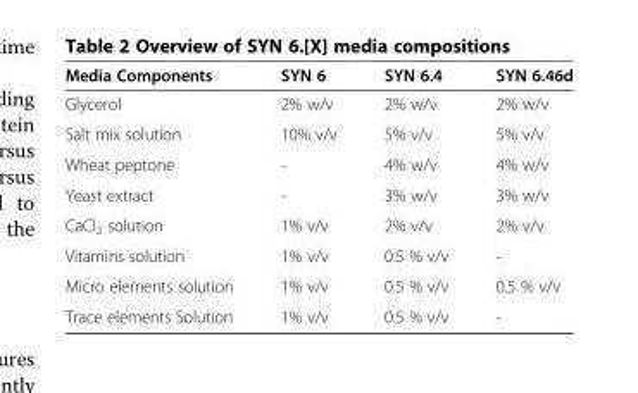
<table><thead><tr><td>Media Components</td><td>SYN 6</td><td>SYN 6.4</td><td>SYN 6.46d</td></tr></thead><tbody><tr><td>Glycerol</td><td>2% w/v</td><td>2% w/v</td><td>2% w/v</td></tr><tr><td>Salt mix solution</td><td>10% v/v</td><td>5% v/v</td><td>5% v/v</td></tr><tr><td>Wheat peptone</td><td>-</td><td>4% w/v</td><td>4% w/v</td></tr><tr><td>Yeast extract</td><td>-</td><td>3% w/v</td><td>3% w/v</td></tr><tr><td>CaCl<sub>2</sub> solution</td><td>1% v/v</td><td>2% v/v</td><td>2% v/v</td></tr><tr><td>Vitamins solution</td><td>1% v/v</td><td>0.5 % v/v</td><td>-</td></tr><tr><td>Micro elements solution</td><td>1% v/v</td><td>0.5 % v/v</td><td>0.5 % v/v</td></tr><tr><td>Trace elements Solution</td><td>1% v/v</td><td>0.5 % v/v</td><td>-</td></tr></tbody></table>